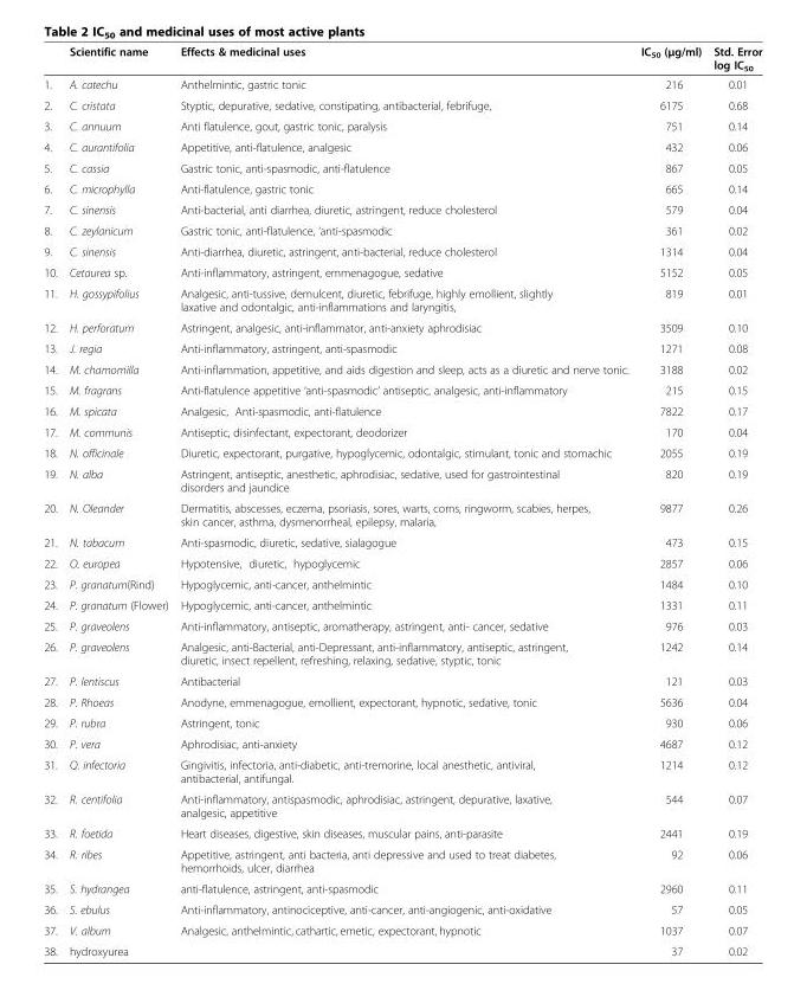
<table><thead><tr><td></td><td>Scientific name</td><td>Effects &amp; medicinal uses</td><td>IC<sub>50</sub> (μg/ml)</td><td>Std. Error log IC<sub>50</sub></td></tr></thead><tbody><tr><td>1.</td><td>A. catechu</td><td>Anthelmintic, gastric tonic</td><td>216</td><td>0.01</td></tr><tr><td>2.</td><td>C. cristata</td><td>Styptic, depurative, sedative, constipating, antibacterial, febrifuge,</td><td>6175</td><td>0.68</td></tr><tr><td>3.</td><td>C. annuum</td><td>Anti flatulence, gout, gastric tonic, paralysis</td><td>751</td><td>0.14</td></tr><tr><td>4.</td><td>C. aurantifolia</td><td>Appetitive, anti-flatulence, analgesic</td><td>432</td><td>0.06</td></tr><tr><td>5.</td><td>C. cassia</td><td>Gastric tonic, anti-spasmodic, anti-flatulence</td><td>867</td><td>0.05</td></tr><tr><td>6.</td><td>C. microphylla</td><td>Anti-flatulence, gastric tonic</td><td>665</td><td>0.14</td></tr><tr><td>7.</td><td>C. sinensis</td><td>Anti-bacterial, anti diarrhea, diuretic, astringent, reduce cholesterol</td><td>579</td><td>0.04</td></tr><tr><td>8.</td><td>C. zeylanicum</td><td>Gastric tonic, anti-flatulence, ‘anti-spasmodic</td><td>361</td><td>0.02</td></tr><tr><td>9.</td><td>C. sinensis</td><td>Anti-diarrhea, diuretic, astringent, anti-bacterial, reduce cholesterol</td><td>1314</td><td>0.04</td></tr><tr><td>10.</td><td>Cetaurea sp.</td><td>Anti-inflammatory, astringent, emmenagogue, sedative</td><td>5152</td><td>0.05</td></tr><tr><td>11.</td><td>H. gossypifolius</td><td>Analgesic, anti-tussive, demulcent, diuretic, febrifuge, highly emollient, slightly laxative and odontalgic, anti-inflammations and laryngitis,</td><td>819</td><td>0.01</td></tr><tr><td>12.</td><td>H. perforatum</td><td>Astringent, analgesic, anti-inflammator, anti-anxiety aphrodisiac</td><td>3509</td><td>0.10</td></tr><tr><td>13.</td><td>J. regia</td><td>Anti-inflammatory, astringent, anti-spasmodic</td><td>1271</td><td>0.08</td></tr><tr><td>14.</td><td>M. chamomilla</td><td>Anti-inflammation, appetitive, and aids digestion and sleep, acts as a diuretic and nerve tonic.</td><td>3188</td><td>0.02</td></tr><tr><td>15.</td><td>M. fragrans</td><td>Anti-flatulence appetitive ‘anti-spasmodic’ antiseptic, analgesic, anti-inflammatory</td><td>215</td><td>0.15</td></tr><tr><td>16.</td><td>M. spicata</td><td>Analgesic, Anti-spasmodic, anti-flatulence</td><td>7822</td><td>0.17</td></tr><tr><td>17.</td><td>M. communis</td><td>Antiseptic, disinfectant, expectorant, deodorizer</td><td>170</td><td>0.04</td></tr><tr><td>18.</td><td>N. officinale</td><td>Diuretic, expectorant, purgative, hypoglycemic, odontalgic, stimulant, tonic and stomachic</td><td>2055</td><td>0.19</td></tr><tr><td>19.</td><td>N. alba</td><td>Astringent, antiseptic, anesthetic, aphrodisiac, sedative, used for gastrointestinal disorders and jaundice</td><td>820</td><td>0.19</td></tr><tr><td>20.</td><td>N. Oleander</td><td>Dermatitis, abscesses, eczema, psoriasis, sores, warts, corns, ringworm, scabies, herpes, skin cancer, asthma, dysmenorrheal, epilepsy, malaria,</td><td>9877</td><td>0.26</td></tr><tr><td>21.</td><td>N. tabacum</td><td>Anti-spasmodic, diuretic, sedative, sialagogue</td><td>473</td><td>0.15</td></tr><tr><td>22.</td><td>O. europea</td><td>Hypotensive, diuretic, hypoglycemic</td><td>2857</td><td>0.06</td></tr><tr><td>23.</td><td>P. granatum(Rind)</td><td>Hypoglycemic, anti-cancer, anthelmintic</td><td>1484</td><td>0.10</td></tr><tr><td>24.</td><td>P. granatum (Flower)</td><td>Hypoglycemic, anti-cancer, anthelmintic</td><td>1331</td><td>0.11</td></tr><tr><td>25.</td><td>P. graveolens</td><td>Anti-inflammatory, antiseptic, aromatherapy, astringent, anti- cancer, sedative</td><td>976</td><td>0.03</td></tr><tr><td>26.</td><td>P. graveolens</td><td>Analgesic, anti-Bacterial, anti-Depressant, anti-inflammatory, antiseptic, astringent, diuretic, insect repellent, refreshing, relaxing, sedative, styptic, tonic</td><td>1242</td><td>0.14</td></tr><tr><td>27.</td><td>P. lentiscus</td><td>Antibacterial</td><td>121</td><td>0.03</td></tr><tr><td>28.</td><td>P. Rhoeas</td><td>Anodyne, emmenagogue, emollient, expectorant, hypnotic, sedative, tonic</td><td>5636</td><td>0.04</td></tr><tr><td>29.</td><td>P. rubra</td><td>Astringent, tonic</td><td>930</td><td>0.06</td></tr><tr><td>30.</td><td>P. vera</td><td>Aphrodisiac, anti-anxiety</td><td>4687</td><td>0.12</td></tr><tr><td>31.</td><td>Q. infectoria</td><td>Gingivitis, infectoria, anti-diabetic, anti-tremorine, local anesthetic, antiviral, antibacterial, antifungal.</td><td>1214</td><td>0.12</td></tr><tr><td>32.</td><td>R. centifolia</td><td>Anti-inflammatory, antispasmodic, aphrodisiac, astringent, depurative, laxative, analgesic, appetitive</td><td>544</td><td>0.07</td></tr><tr><td>33.</td><td>R. foetida</td><td>Heart diseases, digestive, skin diseases, muscular pains, anti-parasite</td><td>2441</td><td>0.19</td></tr><tr><td>34.</td><td>R. ribes</td><td>Appetitive, astringent, anti bacteria, anti depressive and used to treat diabetes, hemorrhoids, ulcer, diarrhea</td><td>92</td><td>0.06</td></tr><tr><td>35.</td><td>S. hydrangea</td><td>anti-flatulence, astringent, anti-spasmodic</td><td>2960</td><td>0.11</td></tr><tr><td>36.</td><td>S. ebulus</td><td>Anti-inflammatory, antinociceptive, anti-cancer, anti-angiogenic, anti-oxidative</td><td>57</td><td>0.05</td></tr><tr><td>37.</td><td>V. album</td><td>Analgesic, anthelmintic, cathartic, emetic, expectorant, hypnotic</td><td>1037</td><td>0.07</td></tr><tr><td>38.</td><td>hydroxyurea</td><td></td><td>37</td><td>0.02</td></tr></tbody></table>